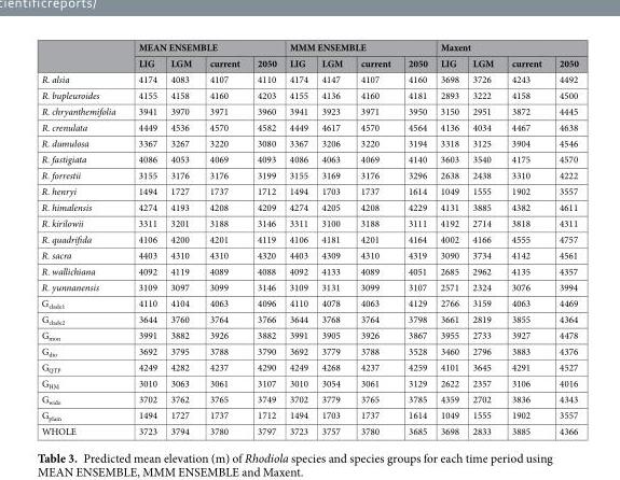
<table><thead><tr><td rowspan="2"></td><td colspan="4">MEAN ENSEMBLE</td><td colspan="4">MMM ENSEMBLE</td><td colspan="4">Maxent</td></tr><tr><td>LIG</td><td>LGM</td><td>current</td><td>2050</td><td>LIG</td><td>LGM</td><td>current</td><td>2050</td><td>LIG</td><td>LGM</td><td>current</td><td>2050</td></tr></thead><tbody><tr><td>R. alsia</td><td>4174</td><td>4083</td><td>4107</td><td>4110</td><td>4174</td><td>4147</td><td>4107</td><td>4160</td><td>3698</td><td>3726</td><td>4243</td><td>4492</td></tr><tr><td>R. bupleuroides</td><td>4155</td><td>4158</td><td>4160</td><td>4203</td><td>4155</td><td>4136</td><td>4160</td><td>4181</td><td>2893</td><td>3222</td><td>4158</td><td>4500</td></tr><tr><td>R. chryanthemifolia</td><td>3941</td><td>3970</td><td>3971</td><td>3960</td><td>3941</td><td>3923</td><td>3971</td><td>3950</td><td>3150</td><td>2951</td><td>3872</td><td>4445</td></tr><tr><td>R. crenulata</td><td>4449</td><td>4536</td><td>4570</td><td>4582</td><td>4449</td><td>4617</td><td>4570</td><td>4564</td><td>4136</td><td>4034</td><td>4467</td><td>4638</td></tr><tr><td>R. dumulosa</td><td>3367</td><td>3267</td><td>3220</td><td>3080</td><td>3367</td><td>3206</td><td>3220</td><td>3194</td><td>3318</td><td>3125</td><td>3904</td><td>4546</td></tr><tr><td>R. fastigiata</td><td>4086</td><td>4053</td><td>4069</td><td>4093</td><td>4086</td><td>4063</td><td>4069</td><td>4140</td><td>3603</td><td>3540</td><td>4175</td><td>4570</td></tr><tr><td>R. forrestii</td><td>3155</td><td>3176</td><td>3176</td><td>3199</td><td>3155</td><td>3169</td><td>3176</td><td>3296</td><td>2638</td><td>2438</td><td>3310</td><td>4222</td></tr><tr><td>R. henryi</td><td>1494</td><td>1727</td><td>1737</td><td>1712</td><td>1494</td><td>1703</td><td>1737</td><td>1614</td><td>1049</td><td>1555</td><td>1902</td><td>3557</td></tr><tr><td>R. himalensis</td><td>4274</td><td>4193</td><td>4208</td><td>4209</td><td>4274</td><td>4205</td><td>4208</td><td>4229</td><td>4131</td><td>3885</td><td>4382</td><td>4611</td></tr><tr><td>R. kirilowii</td><td>3311</td><td>3201</td><td>3188</td><td>3146</td><td>3311</td><td>3100</td><td>3188</td><td>3111</td><td>4192</td><td>2714</td><td>3818</td><td>4311</td></tr><tr><td>R. quadrifida</td><td>4106</td><td>4200</td><td>4201</td><td>4119</td><td>4106</td><td>4181</td><td>4201</td><td>4164</td><td>4002</td><td>4166</td><td>4555</td><td>4757</td></tr><tr><td>R. sacra</td><td>4403</td><td>4310</td><td>4310</td><td>4320</td><td>4403</td><td>4309</td><td>4310</td><td>4319</td><td>3090</td><td>3734</td><td>4142</td><td>4561</td></tr><tr><td>R. wallichiana</td><td>4092</td><td>4119</td><td>4089</td><td>4088</td><td>4092</td><td>4133</td><td>4089</td><td>4051</td><td>2685</td><td>2962</td><td>4135</td><td>4357</td></tr><tr><td>R. yunnanensis</td><td>3109</td><td>3097</td><td>3099</td><td>3146</td><td>3109</td><td>3131</td><td>3099</td><td>3107</td><td>2571</td><td>2324</td><td>3076</td><td>3994</td></tr><tr><td>G<sub>clade1</sub></td><td>4110</td><td>4104</td><td>4063</td><td>4096</td><td>4110</td><td>4078</td><td>4063</td><td>4129</td><td>2766</td><td>3159</td><td>4063</td><td>4469</td></tr><tr><td>G<sub>clade2</sub></td><td>3644</td><td>3760</td><td>3764</td><td>3766</td><td>3644</td><td>3768</td><td>3764</td><td>3798</td><td>3661</td><td>2819</td><td>3855</td><td>4364</td></tr><tr><td>G<sub>mon</sub></td><td>3991</td><td>3882</td><td>3926</td><td>3882</td><td>3991</td><td>3905</td><td>3926</td><td>3867</td><td>3955</td><td>2733</td><td>3927</td><td>4478</td></tr><tr><td>G<sub>dio</sub></td><td>3692</td><td>3795</td><td>3788</td><td>3790</td><td>3692</td><td>3779</td><td>3788</td><td>3528</td><td>3460</td><td>2796</td><td>3883</td><td>4376</td></tr><tr><td>G<sub>QTP</sub></td><td>4249</td><td>4282</td><td>4237</td><td>4290</td><td>4249</td><td>4268</td><td>4237</td><td>4259</td><td>4101</td><td>3645</td><td>4291</td><td>4527</td></tr><tr><td>G<sub>HM</sub></td><td>3010</td><td>3063</td><td>3061</td><td>3107</td><td>3010</td><td>3054</td><td>3061</td><td>3129</td><td>2622</td><td>2357</td><td>3106</td><td>4016</td></tr><tr><td>G<sub>wide</sub></td><td>3702</td><td>3762</td><td>3765</td><td>3749</td><td>3702</td><td>3779</td><td>3765</td><td>3785</td><td>4359</td><td>2702</td><td>3836</td><td>4343</td></tr><tr><td>G<sub>plain</sub></td><td>1494</td><td>1727</td><td>1737</td><td>1712</td><td>1494</td><td>1703</td><td>1737</td><td>1614</td><td>1049</td><td>1555</td><td>1902</td><td>3557</td></tr><tr><td>WHOLE</td><td>3723</td><td>3794</td><td>3780</td><td>3797</td><td>3723</td><td>3757</td><td>3780</td><td>3685</td><td>3698</td><td>2833</td><td>3885</td><td>4366</td></tr></tbody></table>